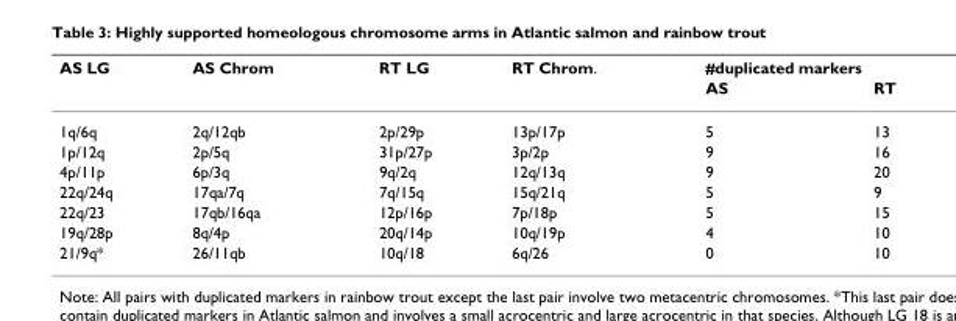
<table><thead><tr><td rowspan="2">AS LG</td><td rowspan="2">AS Chrom</td><td rowspan="2">RT LG</td><td rowspan="2">RT Chrom.</td><td colspan="2">#duplicated markers</td></tr><tr><td>AS</td><td>RT</td></tr></thead><tbody><tr><td>1q/6q</td><td>2q/12qb</td><td>2p/29p</td><td>13p/17p</td><td>5</td><td>13</td></tr><tr><td>1p/12q</td><td>2p/5q</td><td>31p/27p</td><td>3p/2p</td><td>9</td><td>16</td></tr><tr><td>4p/11p</td><td>6p/3q</td><td>9q/2q</td><td>12q/13q</td><td>9</td><td>20</td></tr><tr><td>22q/24q</td><td>17qa/7q</td><td>7q/15q</td><td>15q/21q</td><td>5</td><td>9</td></tr><tr><td>22q/23</td><td>17qb/16qa</td><td>12p/16p</td><td>7p/18p</td><td>5</td><td>15</td></tr><tr><td>19q/28p</td><td>8q/4p</td><td>20q/14p</td><td>10q/19p</td><td>4</td><td>10</td></tr><tr><td>21/9q*</td><td>26/11qb</td><td>10q/18</td><td>6q/26</td><td>0</td><td>10</td></tr></tbody></table>